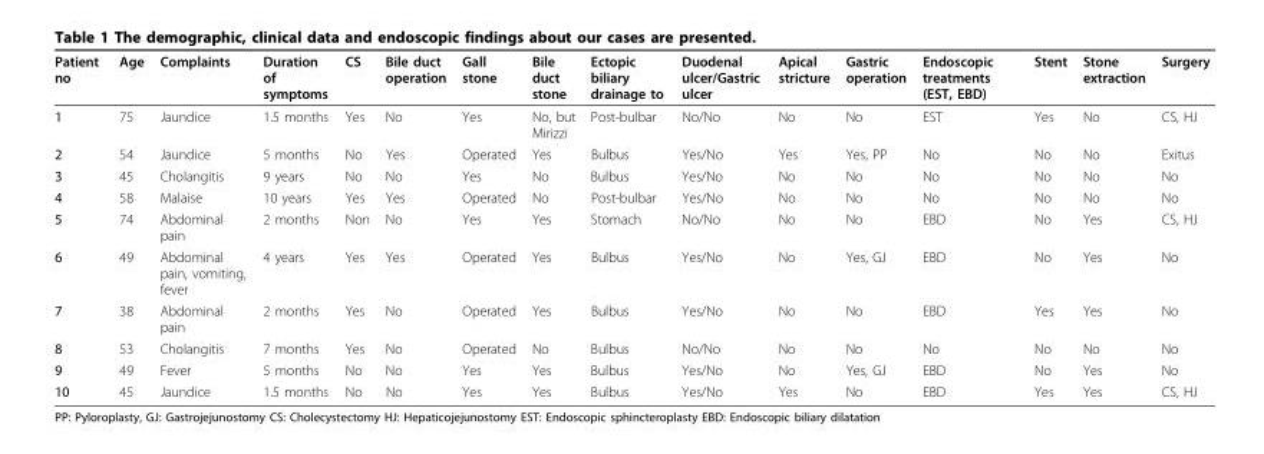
<table><thead><tr><td>Patient no</td><td>Age</td><td>Complaints</td><td>Duration of symptoms</td><td>CS</td><td>Bile duct operation</td><td>Gall stone</td><td>Bile duct stone</td><td>Ectopic biliary drainage to</td><td>Duodenal ulcer/Gastric ulcer</td><td>Apical stricture</td><td>Gastric operation</td><td>Endoscopic treatments (EST, EBD)</td><td>Stent</td><td>Stone extraction</td><td>Surgery</td></tr></thead><tbody><tr><td>1</td><td>75</td><td>Jaundice</td><td>1.5 months</td><td>Yes</td><td>No</td><td>Yes</td><td>No, but Mirizzi</td><td>Post-bulbar</td><td>No/No</td><td>No</td><td>No</td><td>EST</td><td>Yes</td><td>No</td><td>CS, HJ</td></tr><tr><td>2</td><td>54</td><td>Jaundice</td><td>5 months</td><td>No</td><td>Yes</td><td>Operated</td><td>Yes</td><td>Bulbus</td><td>Yes/No</td><td>Yes</td><td>Yes, PP</td><td>No</td><td>No</td><td>No</td><td>Exitus</td></tr><tr><td>3</td><td>45</td><td>Cholangitis</td><td>9 years</td><td>No</td><td>No</td><td>Yes</td><td>No</td><td>Bulbus</td><td>Yes/No</td><td>No</td><td>No</td><td>No</td><td>No</td><td>No</td><td>No</td></tr><tr><td>4</td><td>58</td><td>Malaise</td><td>10 years</td><td>Yes</td><td>Yes</td><td>Operated</td><td>No</td><td>Post-bulbar</td><td>Yes/No</td><td>No</td><td>No</td><td>No</td><td>No</td><td>No</td><td>No</td></tr><tr><td>5</td><td>74</td><td>Abdominal pain</td><td>2 months</td><td>Non</td><td>No</td><td>Yes</td><td>Yes</td><td>Stomach</td><td>No/No</td><td>No</td><td>No</td><td>EBD</td><td>No</td><td>Yes</td><td>CS, HJ</td></tr><tr><td>6</td><td>49</td><td>Abdominal pain, vomiting, fever</td><td>4 years</td><td>Yes</td><td>Yes</td><td>Operated</td><td>Yes</td><td>Bulbus</td><td>Yes/No</td><td>No</td><td>Yes, GJ</td><td>EBD</td><td>No</td><td>Yes</td><td>No</td></tr><tr><td>7</td><td>38</td><td>Abdominal pain</td><td>2 months</td><td>Yes</td><td>No</td><td>Operated</td><td>Yes</td><td>Bulbus</td><td>Yes/No</td><td>No</td><td>No</td><td>EBD</td><td>Yes</td><td>Yes</td><td>No</td></tr><tr><td>8</td><td>53</td><td>Cholangitis</td><td>7 months</td><td>Yes</td><td>No</td><td>Operated</td><td>No</td><td>Bulbus</td><td>No/No</td><td>No</td><td>No</td><td>No</td><td>No</td><td>No</td><td>No</td></tr><tr><td>9</td><td>49</td><td>Fever</td><td>5 months</td><td>No</td><td>No</td><td>Yes</td><td>Yes</td><td>Bulbus</td><td>Yes/No</td><td>No</td><td>Yes, GJ</td><td>EBD</td><td>No</td><td>Yes</td><td>No</td></tr><tr><td>10</td><td>45</td><td>Jaundice</td><td>1.5 months</td><td>No</td><td>No</td><td>Yes</td><td>Yes</td><td>Bulbus</td><td>Yes/No</td><td>Yes</td><td>No</td><td>EBD</td><td>Yes</td><td>Yes</td><td>CS, HJ</td></tr></tbody></table>